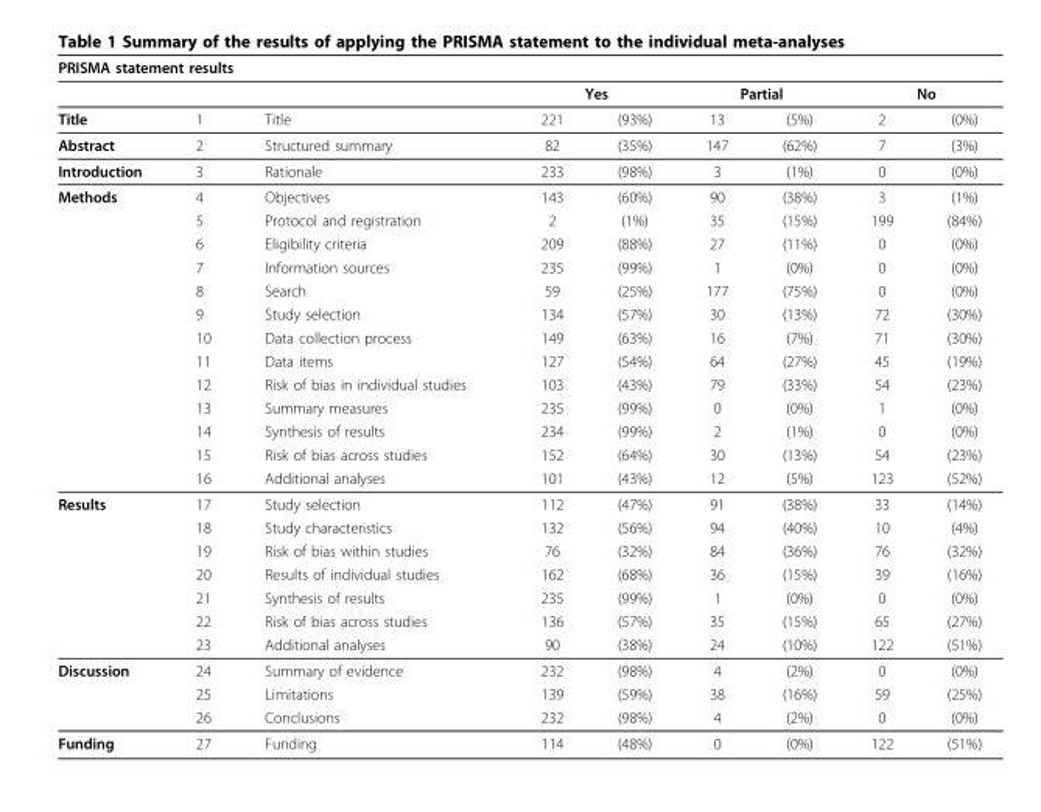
<table><thead><tr><td colspan="3">PRISMA statement results</td><td></td><td></td><td></td><td></td><td></td><td></td></tr><tr><td></td><td></td><td></td><td colspan="2">Yes</td><td colspan="2">Partial</td><td colspan="2">No</td></tr></thead><tbody><tr><td>Title</td><td>1</td><td>Title</td><td>221</td><td>(93%)</td><td>13</td><td>(5%)</td><td>2</td><td>(0%)</td></tr><tr><td>Abstract</td><td>2</td><td>Structured summary</td><td>82</td><td>(35%)</td><td>147</td><td>(62%)</td><td>7</td><td>(3%)</td></tr><tr><td>Introduction</td><td>3</td><td>Rationale</td><td>233</td><td>(98%)</td><td>3</td><td>(1%)</td><td>0</td><td>(0%)</td></tr><tr><td rowspan="13">Methods</td><td>4</td><td>Objectives</td><td>143</td><td>(60%)</td><td>90</td><td>(38%)</td><td>3</td><td>(1%)</td></tr><tr><td>5</td><td>Protocol and registration</td><td>2</td><td>(1%)</td><td>35</td><td>(15%)</td><td>199</td><td>(84%)</td></tr><tr><td>6</td><td>Eligibility criteria</td><td>209</td><td>(88%)</td><td>27</td><td>(11%)</td><td>0</td><td>(0%)</td></tr><tr><td>7</td><td>Information sources</td><td>235</td><td>(99%)</td><td>1</td><td>(0%)</td><td>0</td><td>(0%)</td></tr><tr><td>8</td><td>Search</td><td>59</td><td>(25%)</td><td>177</td><td>(75%)</td><td>0</td><td>(0%)</td></tr><tr><td>9</td><td>Study selection</td><td>134</td><td>(57%)</td><td>30</td><td>(13%)</td><td>72</td><td>(30%)</td></tr><tr><td>10</td><td>Data collection process</td><td>149</td><td>(63%)</td><td>16</td><td>(7%)</td><td>71</td><td>(30%)</td></tr><tr><td>11</td><td>Data items</td><td>127</td><td>(54%)</td><td>64</td><td>(27%)</td><td>45</td><td>(19%)</td></tr><tr><td>12</td><td>Risk of bias in individual studies</td><td>103</td><td>(43%)</td><td>79</td><td>(33%)</td><td>54</td><td>(23%)</td></tr><tr><td>13</td><td>Summary measures</td><td>235</td><td>(99%)</td><td>0</td><td>(0%)</td><td>1</td><td>(0%)</td></tr><tr><td>14</td><td>Synthesis of results</td><td>234</td><td>(99%)</td><td>2</td><td>(1%)</td><td>0</td><td>(0%)</td></tr><tr><td>15</td><td>Risk of bias across studies</td><td>152</td><td>(64%)</td><td>30</td><td>(13%)</td><td>54</td><td>(23%)</td></tr><tr><td>16</td><td>Additional analyses</td><td>101</td><td>(43%)</td><td>12</td><td>(5%)</td><td>123</td><td>(52%)</td></tr><tr><td rowspan="7">Results</td><td>17</td><td>Study selection</td><td>112</td><td>(47%)</td><td>91</td><td>(38%)</td><td>33</td><td>(14%)</td></tr><tr><td>18</td><td>Study characteristics</td><td>132</td><td>(56%)</td><td>94</td><td>(40%)</td><td>10</td><td>(4%)</td></tr><tr><td>19</td><td>Risk of bias within studies</td><td>76</td><td>(32%)</td><td>84</td><td>(36%)</td><td>76</td><td>(32%)</td></tr><tr><td>20</td><td>Results of individual studies</td><td>162</td><td>(68%)</td><td>36</td><td>(15%)</td><td>39</td><td>(16%)</td></tr><tr><td>21</td><td>Synthesis of results</td><td>235</td><td>(99%)</td><td>1</td><td>(0%)</td><td>0</td><td>(0%)</td></tr><tr><td>22</td><td>Risk of bias across studies</td><td>136</td><td>(57%)</td><td>35</td><td>(15%)</td><td>65</td><td>(27%)</td></tr><tr><td>23</td><td>Additional analyses</td><td>90</td><td>(38%)</td><td>24</td><td>(10%)</td><td>122</td><td>(51%)</td></tr><tr><td rowspan="3">Discussion</td><td>24</td><td>Summary of evidence</td><td>232</td><td>(98%)</td><td>4</td><td>(2%)</td><td>0</td><td>(0%)</td></tr><tr><td>25</td><td>Limitations</td><td>139</td><td>(59%)</td><td>38</td><td>(16%)</td><td>59</td><td>(25%)</td></tr><tr><td>26</td><td>Conclusions</td><td>232</td><td>(98%)</td><td>4</td><td>(2%)</td><td>0</td><td>(0%)</td></tr><tr><td>Funding</td><td>27</td><td>Funding</td><td>114</td><td>(48%)</td><td>0</td><td>(0%)</td><td>122</td><td>(51%)</td></tr></tbody></table>